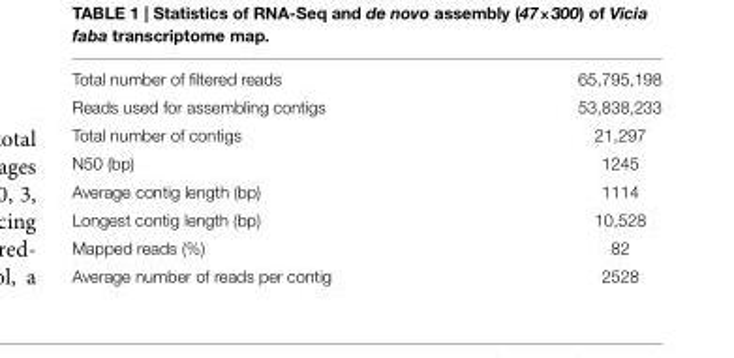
<table><tbody><tr><td>Total number of filtered reads</td><td>65,795,198</td></tr><tr><td>Reads used for assembling contigs</td><td>53,838,233</td></tr><tr><td>Total number of contigs</td><td>21,297</td></tr><tr><td>N50 (bp)</td><td>1245</td></tr><tr><td>Average contig length (bp)</td><td>1114</td></tr><tr><td>Longest contig length (bp)</td><td>10,528</td></tr><tr><td>Mapped reads (%)</td><td>82</td></tr><tr><td>Average number of reads per contig</td><td>2528</td></tr></tbody></table>